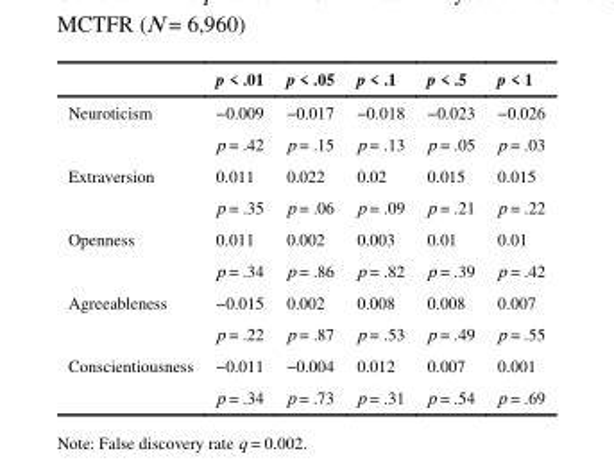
<table><thead><tr><td></td><td>p &lt; .01</td><td>p &lt; .05</td><td>p &lt; .1</td><td>p &lt; .5</td><td>p &lt; 1</td></tr></thead><tbody><tr><td rowspan="2">Neuroticism</td><td>−0.009</td><td>−0.017</td><td>−0.018</td><td>−0.023</td><td>−0.026</td></tr><tr><td>p = .42</td><td>p = .15</td><td>p = .13</td><td>p = .05</td><td>p = .03</td></tr><tr><td rowspan="2">Extraversion</td><td>0.011</td><td>0.022</td><td>0.02</td><td>0.015</td><td>0.015</td></tr><tr><td>p = .35</td><td>p = .06</td><td>p = .09</td><td>p = .21</td><td>p = .22</td></tr><tr><td rowspan="2">Openness</td><td>0.011</td><td>0.002</td><td>0.003</td><td>0.01</td><td>0.01</td></tr><tr><td>p = .34</td><td>p = .86</td><td>p = .82</td><td>p = .39</td><td>p = .42</td></tr><tr><td rowspan="2">Agreeableness</td><td>−0.015</td><td>0.002</td><td>0.008</td><td>0.008</td><td>0.007</td></tr><tr><td>p = .22</td><td>p = .87</td><td>p = .53</td><td>p = .49</td><td>p = .55</td></tr><tr><td rowspan="2">Conscientiousness</td><td>−0.011</td><td>−0.004</td><td>0.012</td><td>0.007</td><td>0.001</td></tr><tr><td>p = .34</td><td>p = .73</td><td>p = .31</td><td>p = .54</td><td>p = .69</td></tr></tbody></table>